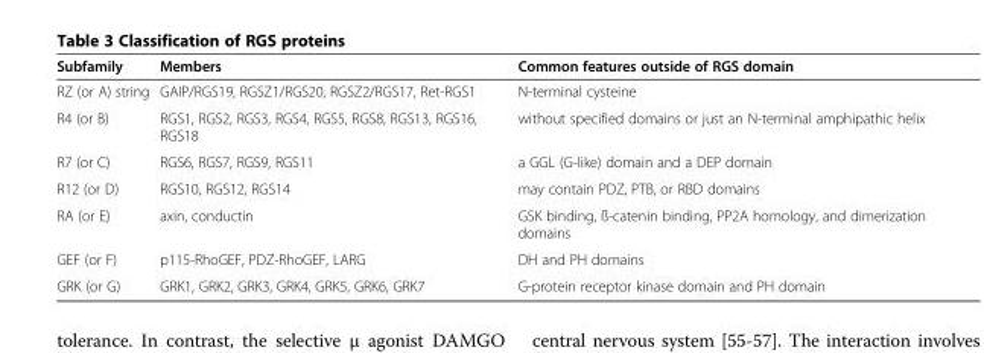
<table><thead><tr><td>Subfamily</td><td>Members</td><td>Common features outside of RGS domain</td></tr></thead><tbody><tr><td>RZ (or A) string</td><td>GAIP/RGS19, RGSZ1/RGS20, RGSZ2/RGS17, Ret-RGS1</td><td>N-terminal cysteine</td></tr><tr><td>R4 (or B)</td><td>RGS1, RGS2, RGS3, RGS4, RGS5, RGS8, RGS13, RGS16, RGS18</td><td>without specified domains or just an N-terminal amphipathic helix</td></tr><tr><td>R7 (or C)</td><td>RGS6, RGS7, RGS9, RGS11</td><td>a GGL (G-like) domain and a DEP domain</td></tr><tr><td>R12 (or D)</td><td>RGS10, RGS12, RGS14</td><td>may contain PDZ, PTB, or RBD domains</td></tr><tr><td>RA (or E)</td><td>axin, conductin</td><td>GSK binding, ß-catenin binding, PP2A homology, and dimerization domains</td></tr><tr><td>GEF (or F)</td><td>p115-RhoGEF, PDZ-RhoGEF, LARG</td><td>DH and PH domains</td></tr><tr><td>GRK (or G)</td><td>GRK1, GRK2, GRK3, GRK4, GRK5, GRK6, GRK7</td><td>G-protein receptor kinase domain and PH domain</td></tr></tbody></table>